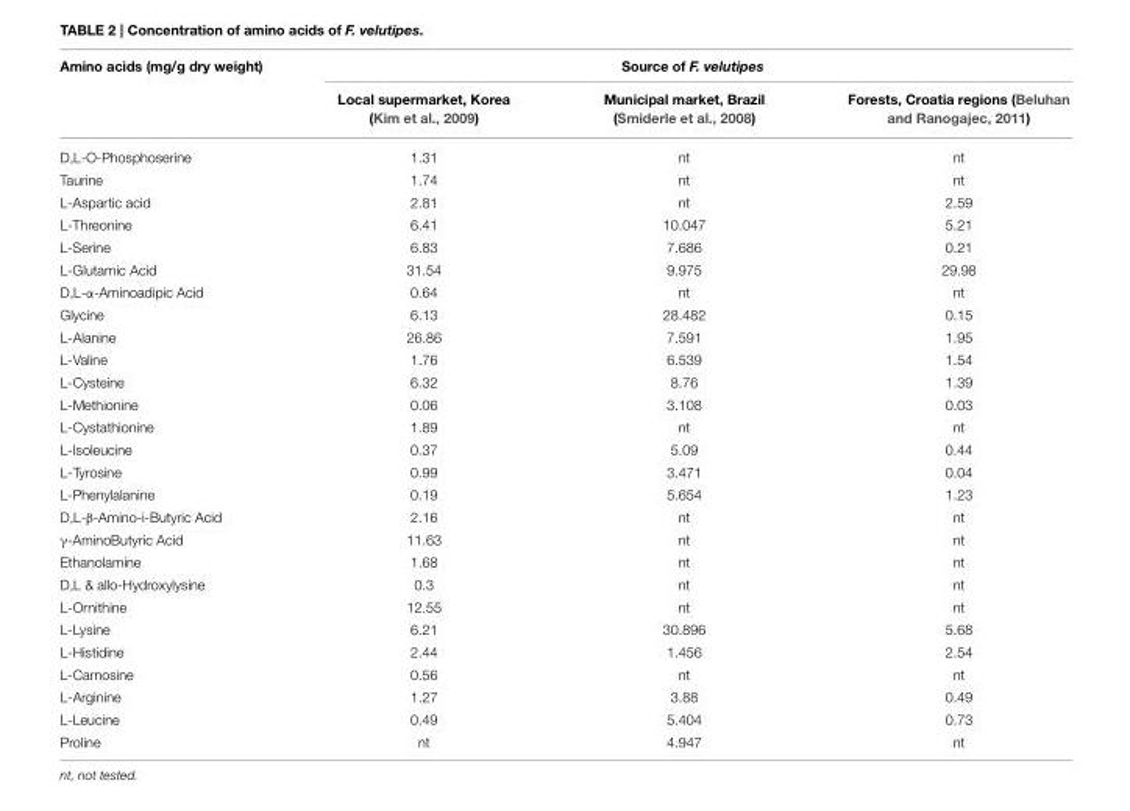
<table><thead><tr><td rowspan="2">Amino acids (mg/g dry weight)</td><td colspan="3">Source of F. velutipes</td></tr><tr><td>Local supermarket, Korea (Kim et al., 2009)</td><td>Municipal market, Brazil (Smiderle et al., 2008)</td><td>Forests, Croatia regions (Beluhan and Ranogajec, 2011)</td></tr></thead><tbody><tr><td>D,L-O-Phosphoserine</td><td>1.31</td><td>nt</td><td>nt</td></tr><tr><td>Taurine</td><td>1.74</td><td>nt</td><td>nt</td></tr><tr><td>L-Aspartic acid</td><td>2.81</td><td>nt</td><td>2.59</td></tr><tr><td>L-Threonine</td><td>6.41</td><td>10.047</td><td>5.21</td></tr><tr><td>L-Serine</td><td>6.83</td><td>7.686</td><td>0.21</td></tr><tr><td>L-Glutamic Acid</td><td>31.54</td><td>9.975</td><td>29.98</td></tr><tr><td>D,L-α-Aminoadipic Acid</td><td>0.64</td><td>nt</td><td>nt</td></tr><tr><td>Glycine</td><td>6.13</td><td>28.482</td><td>0.15</td></tr><tr><td>L-Alanine</td><td>26.86</td><td>7.591</td><td>1.95</td></tr><tr><td>L-Valine</td><td>1.76</td><td>6.539</td><td>1.54</td></tr><tr><td>L-Cysteine</td><td>6.32</td><td>8.76</td><td>1.39</td></tr><tr><td>L-Methionine</td><td>0.06</td><td>3.108</td><td>0.03</td></tr><tr><td>L-Cystathionine</td><td>1.89</td><td>nt</td><td>nt</td></tr><tr><td>L-Isoleucine</td><td>0.37</td><td>5.09</td><td>0.44</td></tr><tr><td>L-Tyrosine</td><td>0.99</td><td>3.471</td><td>0.04</td></tr><tr><td>L-Phenylalanine</td><td>0.19</td><td>5.654</td><td>1.23</td></tr><tr><td>D,L-β-Amino-i-Butyric Acid</td><td>2.16</td><td>nt</td><td>nt</td></tr><tr><td>γ-AminoButyric Acid</td><td>11.63</td><td>nt</td><td>nt</td></tr><tr><td>Ethanolamine</td><td>1.68</td><td>nt</td><td>nt</td></tr><tr><td>D,L &amp; allo-Hydroxylysine</td><td>0.3</td><td>nt</td><td>nt</td></tr><tr><td>L-Ornithine</td><td>12.55</td><td>nt</td><td>nt</td></tr><tr><td>L-Lysine</td><td>6.21</td><td>30.896</td><td>5.68</td></tr><tr><td>L-Histidine</td><td>2.44</td><td>1.456</td><td>2.54</td></tr><tr><td>L-Carnosine</td><td>0.56</td><td>nt</td><td>nt</td></tr><tr><td>L-Arginine</td><td>1.27</td><td>3.88</td><td>0.49</td></tr><tr><td>L-Leucine</td><td>0.49</td><td>5.404</td><td>0.73</td></tr><tr><td>Proline</td><td>nt</td><td>4.947</td><td>nt</td></tr></tbody></table>